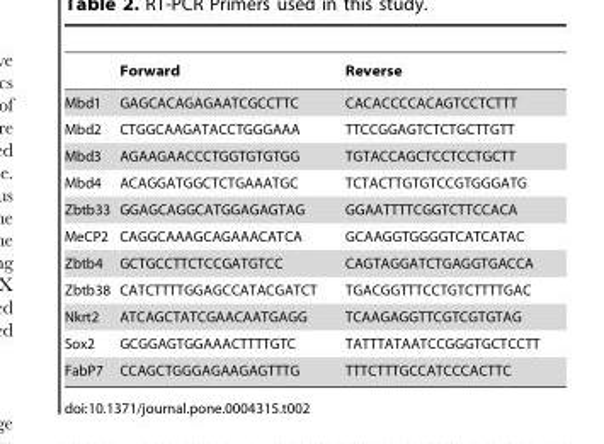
<table><thead><tr><td></td><td>Forward</td><td>Reverse</td></tr></thead><tbody><tr><td>Mbd1</td><td>GAGCACAGAGAATCGCCTTC</td><td>CACACCCCACAGTCCTCTTT</td></tr><tr><td>Mbd2</td><td>CTGGCAAGATACCTGGGAAA</td><td>TTCCGGAGTCTCTGCTTGTT</td></tr><tr><td>Mbd3</td><td>AGAAGAACCCTGGTGTGTGG</td><td>TGTACCAGCTCCTCCTGCTT</td></tr><tr><td>Mbd4</td><td>ACAGGATGGCTCTGAAATGC</td><td>TCTACTTGTGTCCGTGGGATG</td></tr><tr><td>Zbtb33</td><td>GGAGCAGGCATGGAGAGTAG</td><td>GGAATTTTCGGTCTTCCACA</td></tr><tr><td>MeCP2</td><td>CAGGCAAAGCAGAAACATCA</td><td>GCAAGGTGGGGTCATCATAC</td></tr><tr><td>Zbtb4</td><td>GCTGCCTTCTCCGATGTCC</td><td>CAGTAGGATCTGAGGTGACCA</td></tr><tr><td>Zbtb38</td><td>CATCTTTTGGAGCCATACGATCT</td><td>TGACGGTTTCCTGTCTTTTGAC</td></tr><tr><td>Nkrt2</td><td>ATCAGCTATCGAACAATGAGG</td><td>TCAAGAGGTTCGTCGTGTAG</td></tr><tr><td>Sox2</td><td>GCGGAGTGGAAACTTTTGTC</td><td>TATTTATAATCCGGGTGCTCCTT</td></tr><tr><td>FabP7</td><td>CCAGCTGGGAGAAGAGTTTG</td><td>TTTCTTTGCCATCCCACTTC</td></tr></tbody></table>